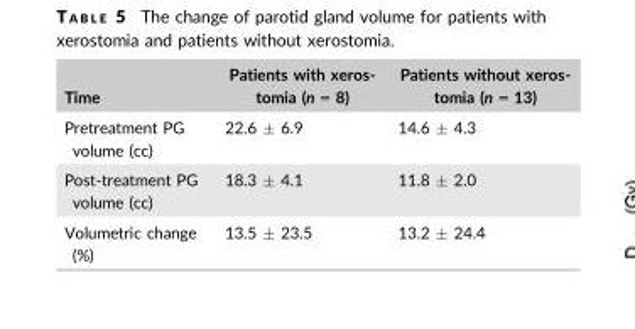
<table><thead><tr><td>Time</td><td>Patients with xeros- tomia (n = 8)</td><td>Patients without xeros- tomia (n = 13)</td></tr></thead><tbody><tr><td>Pretreatment PG volume (cc)</td><td>22.6 ± 6.9</td><td>14.6 ± 4.3</td></tr><tr><td>Post-treatment PG volume (cc)</td><td>18.3 ± 4.1</td><td>11.8 ± 2.0</td></tr><tr><td>Volumetric change (%)</td><td>13.5 ± 23.5</td><td>13.2 ± 24.4</td></tr></tbody></table>